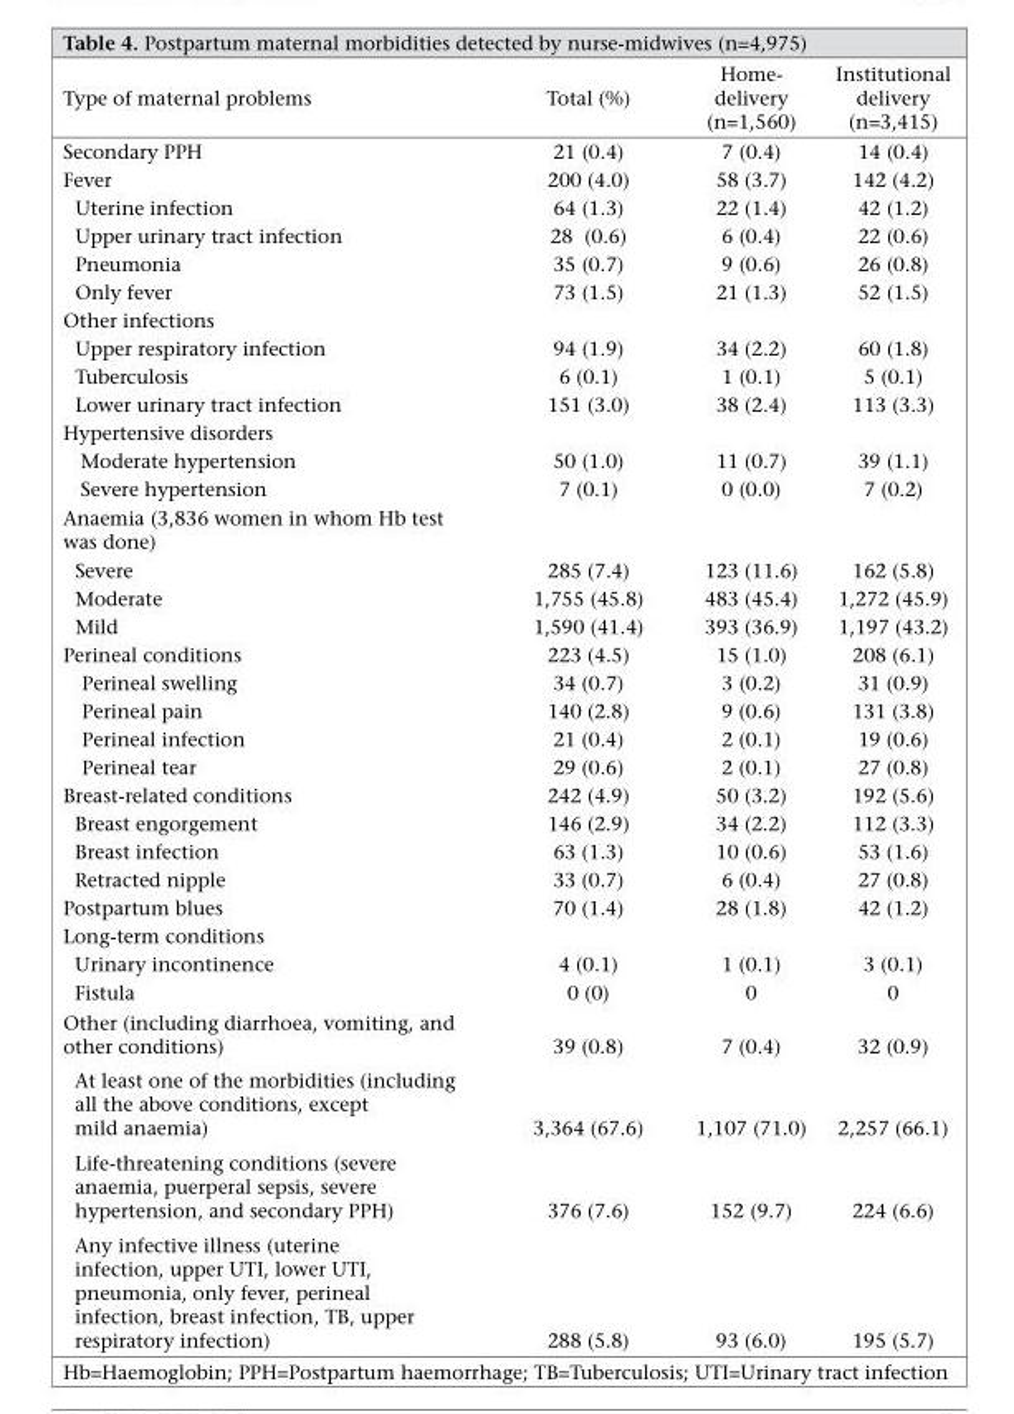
<table><thead><tr><td>Type of maternal problems</td><td>Total (%)</td><td>Home- delivery (n=1,560)</td><td>Institutional delivery (n=3,415)</td></tr></thead><tbody><tr><td>Secondary PPH</td><td>21 (0.4)</td><td>7 (0.4)</td><td>14 (0.4)</td></tr><tr><td>Fever</td><td>200 (4.0)</td><td>58 (3.7)</td><td>142 (4.2)</td></tr><tr><td>Uterine infection</td><td>64 (1.3)</td><td>22 (1.4)</td><td>42 (1.2)</td></tr><tr><td>Upper urinary tract infection</td><td>28 (0.6)</td><td>6 (0.4)</td><td>22 (0.6)</td></tr><tr><td>Pneumonia</td><td>35 (0.7)</td><td>9 (0.6)</td><td>26 (0.8)</td></tr><tr><td>Only fever</td><td>73 (1.5)</td><td>21 (1.3)</td><td>52 (1.5)</td></tr><tr><td colspan="4">Other infections</td></tr><tr><td>Upper respiratory infection</td><td>94 (1.9)</td><td>34 (2.2)</td><td>60 (1.8)</td></tr><tr><td>Tuberculosis</td><td>6 (0.1)</td><td>1 (0.1)</td><td>5 (0.1)</td></tr><tr><td>Lower urinary tract infection</td><td>151 (3.0)</td><td>38 (2.4)</td><td>113 (3.3)</td></tr><tr><td colspan="4">Hypertensive disorders</td></tr><tr><td>Moderate hypertension</td><td>50 (1.0)</td><td>11 (0.7)</td><td>39 (1.1)</td></tr><tr><td>Severe hypertension</td><td>7 (0.1)</td><td>0 (0.0)</td><td>7 (0.2)</td></tr><tr><td colspan="4">Anaemia (3,836 women in whom Hb test was done)</td></tr><tr><td>Severe</td><td>285 (7.4)</td><td>123 (11.6)</td><td>162 (5.8)</td></tr><tr><td>Moderate</td><td>1,755 (45.8)</td><td>483 (45.4)</td><td>1,272 (45.9)</td></tr><tr><td>Mild</td><td>1,590 (41.4)</td><td>393 (36.9)</td><td>1,197 (43.2)</td></tr><tr><td>Perineal conditions</td><td>223 (4.5)</td><td>15 (1.0)</td><td>208 (6.1)</td></tr><tr><td>Perineal swelling</td><td>34 (0.7)</td><td>3 (0.2)</td><td>31 (0.9)</td></tr><tr><td>Perineal pain</td><td>140 (2.8)</td><td>9 (0.6)</td><td>131 (3.8)</td></tr><tr><td>Perineal infection</td><td>21 (0.4)</td><td>2 (0.1)</td><td>19 (0.6)</td></tr><tr><td>Perineal tear</td><td>29 (0.6)</td><td>2 (0.1)</td><td>27 (0.8)</td></tr><tr><td>Breast-related conditions</td><td>242 (4.9)</td><td>50 (3.2)</td><td>192 (5.6)</td></tr><tr><td>Breast engorgement</td><td>146 (2.9)</td><td>34 (2.2)</td><td>112 (3.3)</td></tr><tr><td>Breast infection</td><td>63 (1.3)</td><td>10 (0.6)</td><td>53 (1.6)</td></tr><tr><td>Retracted nipple</td><td>33 (0.7)</td><td>6 (0.4)</td><td>27 (0.8)</td></tr><tr><td>Postpartum blues</td><td>70 (1.4)</td><td>28 (1.8)</td><td>42 (1.2)</td></tr><tr><td colspan="4">Long-term conditions</td></tr><tr><td>Urinary incontinence</td><td>4 (0.1)</td><td>1 (0.1)</td><td>3 (0.1)</td></tr><tr><td>Fistula</td><td>0 (0)</td><td>0</td><td>0</td></tr><tr><td>Other (including diarrhoea, vomiting, and other conditions)</td><td>39 (0.8)</td><td>7 (0.4)</td><td>32 (0.9)</td></tr><tr><td>At least one of the morbidities (including all the above conditions, except mild anaemia)</td><td>3,364 (67.6)</td><td>1,107 (71.0)</td><td>2,257 (66.1)</td></tr><tr><td>Life-threatening conditions (severe anaemia, puerperal sepsis, severe hypertension, and secondary PPH)</td><td>376 (7.6)</td><td>152 (9.7)</td><td>224 (6.6)</td></tr><tr><td>Any infective illness (uterine infection, upper UTI, lower UTI, pneumonia, only fever, perineal infection, breast infection, TB, upper respiratory infection)</td><td>288 (5.8)</td><td>93 (6.0)</td><td>195 (5.7)</td></tr></tbody></table>